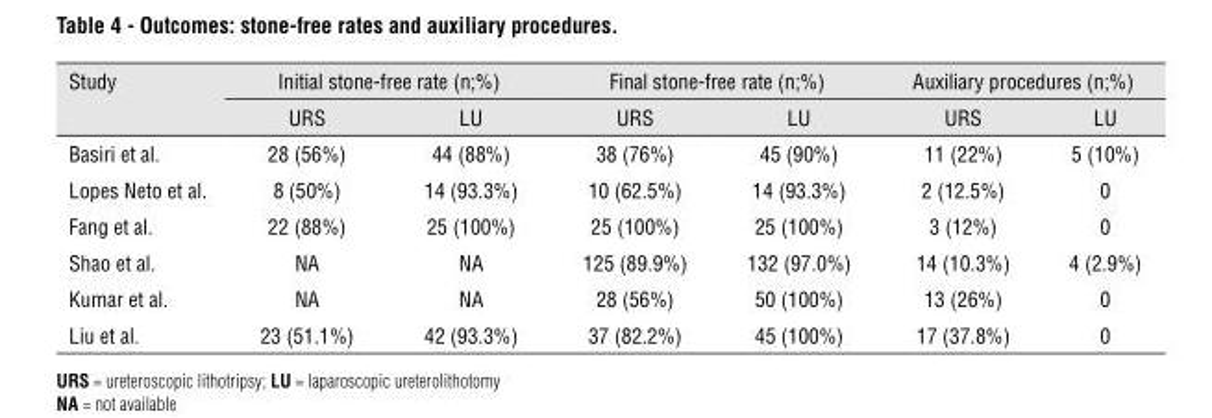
<table><thead><tr><td rowspan="2">Study</td><td colspan="2">Initial stone-free rate (n;%)</td><td colspan="2">Final stone-free rate (n;%)</td><td colspan="2">Auxiliary procedures (n;%)</td></tr><tr><td>URS</td><td>LU</td><td>URS</td><td>LU</td><td>URS</td><td>LU</td></tr></thead><tbody><tr><td>Basiri et al.</td><td>28 (56%)</td><td>44 (88%)</td><td>38 (76%)</td><td>45 (90%)</td><td>11 (22%)</td><td>5 (10%)</td></tr><tr><td>Lopes Neto et al.</td><td>8 (50%)</td><td>14 (93.3%)</td><td>10 (62.5%)</td><td>14 (93.3%)</td><td>2 (12.5%)</td><td>0</td></tr><tr><td>Fang et al.</td><td>22 (88%)</td><td>25 (100%)</td><td>25 (100%)</td><td>25 (100%)</td><td>3 (12%)</td><td>0</td></tr><tr><td>Shao et al.</td><td>NA</td><td>NA</td><td>125 (89.9%)</td><td>132 (97.0%)</td><td>14 (10.3%)</td><td>4 (2.9%)</td></tr><tr><td>Kumar et al.</td><td>NA</td><td>NA</td><td>28 (56%)</td><td>50 (100%)</td><td>13 (26%)</td><td>0</td></tr><tr><td>Liu et al.</td><td>23 (51.1%)</td><td>42 (93.3%)</td><td>37 (82.2%)</td><td>45 (100%)</td><td>17 (37.8%)</td><td>0</td></tr></tbody></table>